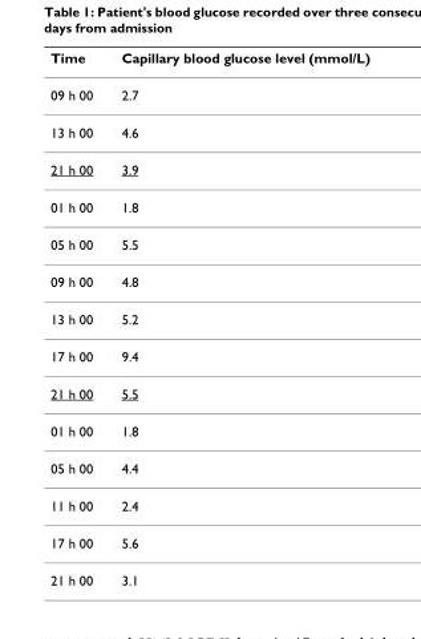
<table><thead><tr><td>Time</td><td>Capillary blood glucose level (mmol/L)</td></tr></thead><tbody><tr><td>09 h 00</td><td>2.7</td></tr><tr><td>13 h 00</td><td>4.6</td></tr><tr><td>21 h 00</td><td>3.9</td></tr><tr><td>01 h 00</td><td>1.8</td></tr><tr><td>05 h 00</td><td>5.5</td></tr><tr><td>09 h 00</td><td>4.8</td></tr><tr><td>13 h 00</td><td>5.2</td></tr><tr><td>17 h 00</td><td>9.4</td></tr><tr><td>21 h 00</td><td>5.5</td></tr><tr><td>01 h 00</td><td>1.8</td></tr><tr><td>05 h 00</td><td>4.4</td></tr><tr><td>11 h 00</td><td>2.4</td></tr><tr><td>17 h 00</td><td>5.6</td></tr><tr><td>21 h 00</td><td>3.1</td></tr></tbody></table>